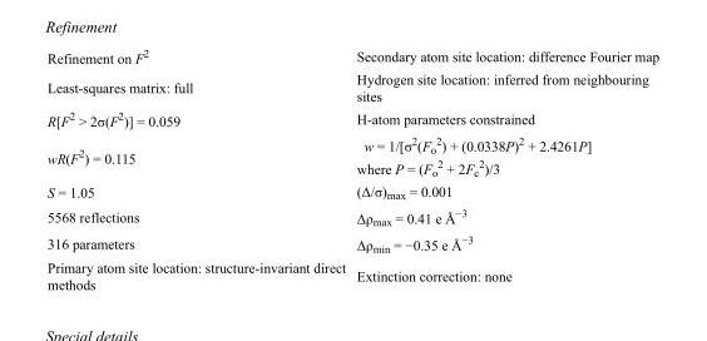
<table><tbody><tr><td>Refinement on F<sup>2</sup></td><td>Secondary atom site location: difference Fourier map</td></tr><tr><td>Least-squares matrix: full</td><td>Hydrogen site location: inferred from neighbouring sites</td></tr><tr><td>R[F<sup>2</sup> &gt; 2σ(F<sup>2</sup>)] = 0.059</td><td>H-atom parameters constrained</td></tr><tr><td>wR(F<sup>2</sup>) = 0.115</td><td>w = 1/[σ<sup>2</sup>(F<sub>o</sub> <sup>2</sup>) + (0.0338P)<sup>2</sup> + 2.4261P] where P = (F<sub>o</sub> <sup>2</sup> + 2F<sub>c</sub> <sup>2</sup>)/3</td></tr><tr><td>S = 1.05</td><td>(Δ/σ)<sub>max</sub> = 0.001</td></tr><tr><td>5568 reflections</td><td>Δρ<sub>max</sub> = 0.41 e Å<sup>−3</sup></td></tr><tr><td>316 parameters</td><td>Δρ<sub>min</sub> = −0.35 e Å<sup>−3</sup></td></tr><tr><td>Primary atom site location: structure-invariant direct methods</td><td>Extinction correction: none</td></tr></tbody></table>